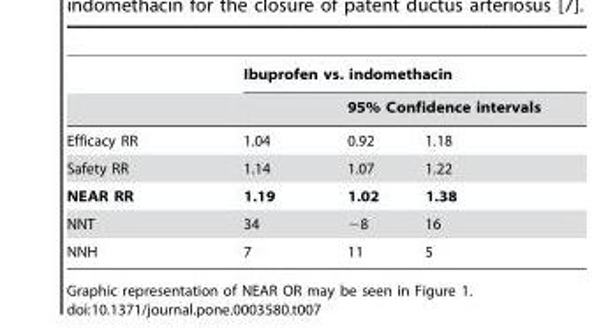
<table><thead><tr><td rowspan="3">Efficacy RR</td><td colspan="3">Ibuprofen vs. indomethacin</td></tr><tr><td rowspan="2">1.04</td><td colspan="2">95% Confidence intervals</td></tr><tr><td>0.92</td><td>1.18</td></tr></thead><tbody><tr><td>Safety RR</td><td>1.14</td><td>1.07</td><td>1.22</td></tr><tr><td>NEAR RR</td><td>1.19</td><td>1.02</td><td>1.38</td></tr><tr><td>NNT</td><td>34</td><td>−8</td><td>16</td></tr><tr><td>NNH</td><td>7</td><td>11</td><td>5</td></tr></tbody></table>